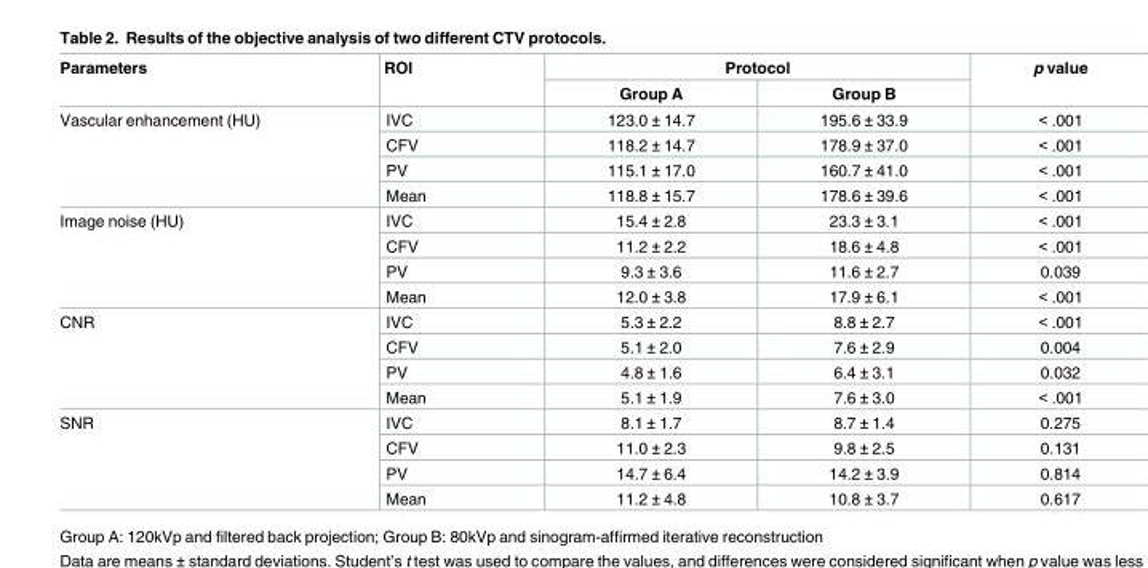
<table><thead><tr><td rowspan="2">Parameters</td><td rowspan="2">ROI</td><td colspan="2">Protocol</td><td rowspan="2">p value</td></tr><tr><td>Group A</td><td>Group B</td></tr></thead><tbody><tr><td rowspan="4">Vascular enhancement (HU)</td><td>IVC</td><td>123.0 ± 14.7</td><td>195.6 ± 33.9</td><td>&lt; .001</td></tr><tr><td>CFV</td><td>118.2 ± 14.7</td><td>178.9 ± 37.0</td><td>&lt; .001</td></tr><tr><td>PV</td><td>115.1 ± 17.0</td><td>160.7 ± 41.0</td><td>&lt; .001</td></tr><tr><td>Mean</td><td>118.8 ± 15.7</td><td>178.6 ± 39.6</td><td>&lt; .001</td></tr><tr><td rowspan="4">Image noise (HU)</td><td>IVC</td><td>15.4 ± 2.8</td><td>23.3 ± 3.1</td><td>&lt; .001</td></tr><tr><td>CFV</td><td>11.2 ± 2.2</td><td>18.6 ± 4.8</td><td>&lt; .001</td></tr><tr><td>PV</td><td>9.3 ± 3.6</td><td>11.6 ± 2.7</td><td>0.039</td></tr><tr><td>Mean</td><td>12.0 ± 3.8</td><td>17.9 ± 6.1</td><td>&lt; .001</td></tr><tr><td rowspan="4">CNR</td><td>IVC</td><td>5.3 ± 2.2</td><td>8.8 ± 2.7</td><td>&lt; .001</td></tr><tr><td>CFV</td><td>5.1 ± 2.0</td><td>7.6 ± 2.9</td><td>0.004</td></tr><tr><td>PV</td><td>4.8 ± 1.6</td><td>6.4 ± 3.1</td><td>0.032</td></tr><tr><td>Mean</td><td>5.1 ± 1.9</td><td>7.6 ± 3.0</td><td>&lt; .001</td></tr><tr><td rowspan="4">SNR</td><td>IVC</td><td>8.1 ± 1.7</td><td>8.7 ± 1.4</td><td>0.275</td></tr><tr><td>CFV</td><td>11.0 ± 2.3</td><td>9.8 ± 2.5</td><td>0.131</td></tr><tr><td>PV</td><td>14.7 ± 6.4</td><td>14.2 ± 3.9</td><td>0.814</td></tr><tr><td>Mean</td><td>11.2 ± 4.8</td><td>10.8 ± 3.7</td><td>0.617</td></tr></tbody></table>